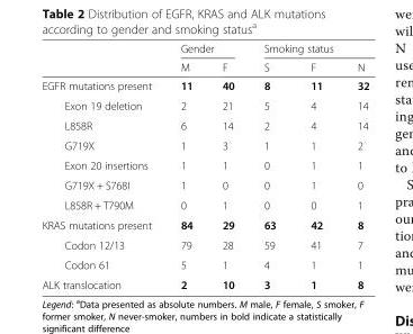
<table><thead><tr><td rowspan="2"></td><td colspan="2">Gender</td><td colspan="3">Smoking status</td></tr><tr><td>M</td><td>F</td><td>S</td><td>F</td><td>N</td></tr></thead><tbody><tr><td>EGFR mutations present</td><td>11</td><td>40</td><td>8</td><td>11</td><td>32</td></tr><tr><td>Exon 19 deletion</td><td>2</td><td>21</td><td>5</td><td>4</td><td>14</td></tr><tr><td>L858R</td><td>6</td><td>14</td><td>2</td><td>4</td><td>14</td></tr><tr><td>G719X</td><td>1</td><td>3</td><td>1</td><td>1</td><td>2</td></tr><tr><td>Exon 20 insertions</td><td>1</td><td>1</td><td>0</td><td>1</td><td>1</td></tr><tr><td>G719X + S768I</td><td>1</td><td>0</td><td>0</td><td>1</td><td>0</td></tr><tr><td>L858R + T790M</td><td>0</td><td>1</td><td>0</td><td>0</td><td>1</td></tr><tr><td>KRAS mutations present</td><td>84</td><td>29</td><td>63</td><td>42</td><td>8</td></tr><tr><td>Codon 12/13</td><td>79</td><td>28</td><td>59</td><td>41</td><td>7</td></tr><tr><td>Codon 61</td><td>5</td><td>1</td><td>4</td><td>1</td><td>1</td></tr><tr><td>ALK translocation</td><td>2</td><td>10</td><td>3</td><td>1</td><td>8</td></tr></tbody></table>